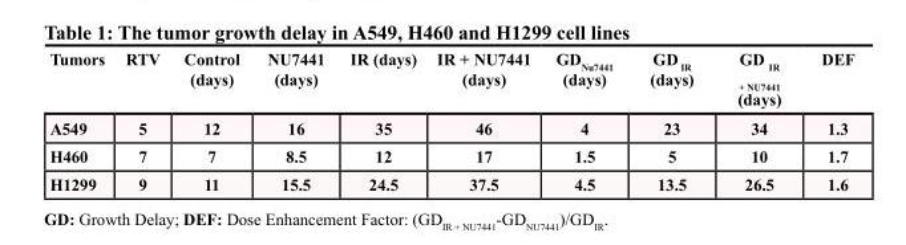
<table><thead><tr><td>Tumors</td><td>RTV</td><td>Control (days)</td><td>NU7441 (days)</td><td>IR (days)</td><td>IR + NU7441 (days)</td><td>GD<sub>Nu7441</sub> (days)</td><td>GD <sub>IR</sub> (days)</td><td>GD <sub>IR + NU7441</sub> (days)</td><td>DEF</td></tr></thead><tbody><tr><td>A549</td><td>5</td><td>12</td><td>16</td><td>35</td><td>46</td><td>4</td><td>23</td><td>34</td><td>1.3</td></tr><tr><td>H460</td><td>7</td><td>7</td><td>8.5</td><td>12</td><td>17</td><td>1.5</td><td>5</td><td>10</td><td>1.7</td></tr><tr><td>H1299</td><td>9</td><td>11</td><td>15.5</td><td>24.5</td><td>37.5</td><td>4.5</td><td>13.5</td><td>26.5</td><td>1.6</td></tr></tbody></table>